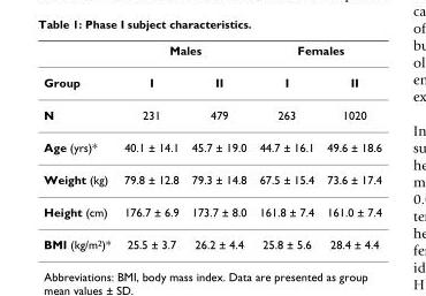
<table><thead><tr><td rowspan="2">Group</td><td colspan="2">Males</td><td colspan="2">Females</td></tr><tr><td>I</td><td>II</td><td>I</td><td>II</td></tr></thead><tbody><tr><td>N</td><td>231</td><td>479</td><td>263</td><td>1020</td></tr><tr><td>Age (yrs)*</td><td>40.1 ± 14.1</td><td>45.7 ± 19.0</td><td>44.7 ± 16.1</td><td>49.6 ± 18.6</td></tr><tr><td>Weight (kg)</td><td>79.8 ± 12.8</td><td>79.3 ± 14.8</td><td>67.5 ± 15.4</td><td>73.6 ± 17.4</td></tr><tr><td>Height (cm)</td><td>176.7 ± 6.9</td><td>173.7 ± 8.0</td><td>161.8 ± 7.4</td><td>161.0 ± 7.4</td></tr><tr><td>BMI (kg/m<sup>2</sup>)*</td><td>25.5 ± 3.7</td><td>26.2 ± 4.4</td><td>25.8 ± 5.6</td><td>28.4 ± 4.4</td></tr></tbody></table>